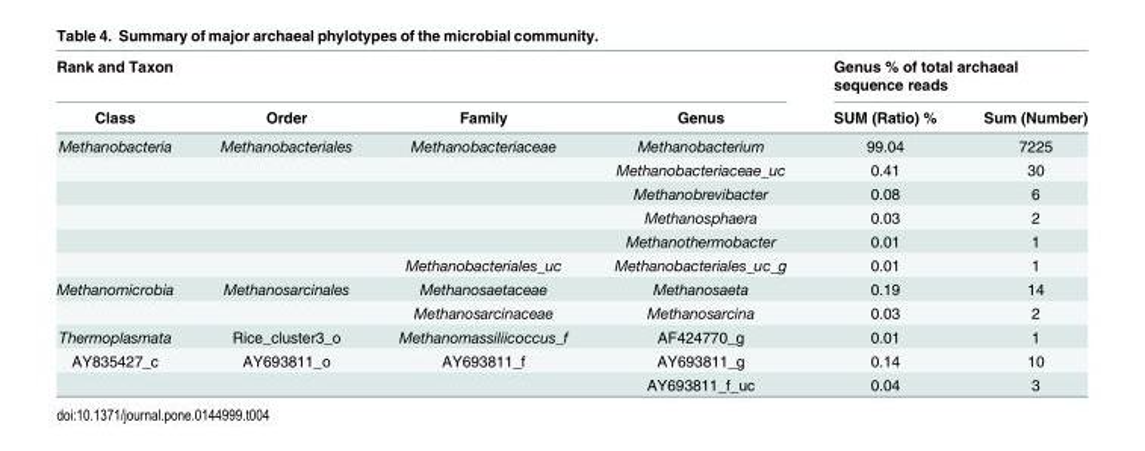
<table><thead><tr><td colspan="4">Rank and Taxon</td><td colspan="2">Genus % of total archaeal sequence reads</td></tr><tr><td>Class</td><td>Order</td><td>Family</td><td>Genus</td><td>SUM (Ratio) %</td><td>Sum (Number)</td></tr></thead><tbody><tr><td rowspan="6">Methanobacteria</td><td>Methanobacteriales</td><td>Methanobacteriaceae</td><td>Methanobacterium</td><td>99.04</td><td>7225</td></tr><tr><td></td><td></td><td>Methanobacteriaceae_uc</td><td>0.41</td><td>30</td></tr><tr><td></td><td></td><td>Methanobrevibacter</td><td>0.08</td><td>6</td></tr><tr><td></td><td></td><td>Methanosphaera</td><td>0.03</td><td>2</td></tr><tr><td></td><td></td><td>Methanothermobacter</td><td>0.01</td><td>1</td></tr><tr><td></td><td>Methanobacteriales_uc</td><td>Methanobacteriales_uc_g</td><td>0.01</td><td>1</td></tr><tr><td rowspan="2">Methanomicrobia</td><td>Methanosarcinales</td><td>Methanosaetaceae</td><td>Methanosaeta</td><td>0.19</td><td>14</td></tr><tr><td></td><td>Methanosarcinaceae</td><td>Methanosarcina</td><td>0.03</td><td>2</td></tr><tr><td>Thermoplasmata</td><td>Rice_cluster3_o</td><td>Methanomassiliicoccus_f</td><td>AF424770_g</td><td>0.01</td><td>1</td></tr><tr><td rowspan="2">AY835427_c</td><td>AY693811_o</td><td>AY693811_f</td><td>AY693811_g</td><td>0.14</td><td>10</td></tr><tr><td></td><td></td><td>AY693811_f_uc</td><td>0.04</td><td>3</td></tr></tbody></table>